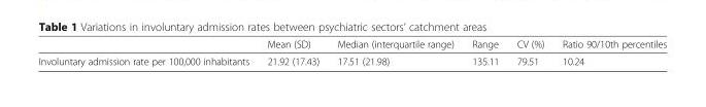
<table><thead><tr><td></td><td>Mean (SD)</td><td>Median (interquartile range)</td><td>Range</td><td>CV (%)</td><td>Ratio 90/10th percentiles</td></tr></thead><tbody><tr><td>Involuntary admission rate per 100,000 inhabitants</td><td>21.92 (17.43)</td><td>17.51 (21.98)</td><td>135.11</td><td>79.51</td><td>10.24</td></tr></tbody></table>